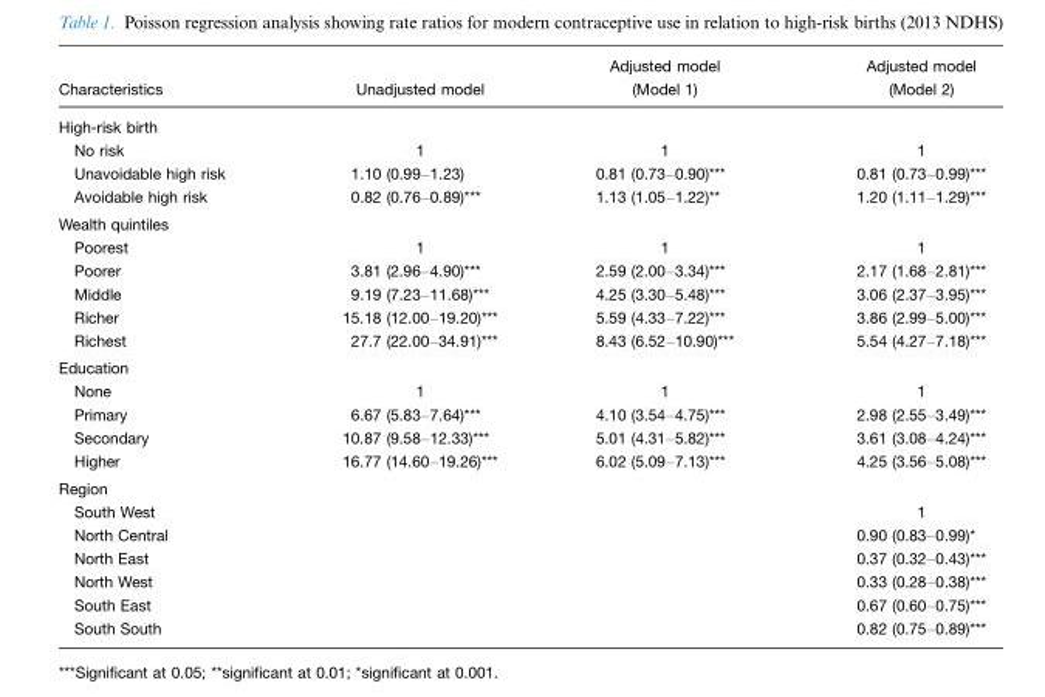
<table><thead><tr><td>Characteristics</td><td>Unadjusted model</td><td>Adjusted model (Model 1)</td><td>Adjusted model (Model 2)</td></tr></thead><tbody><tr><td colspan="4">High-risk birth</td></tr><tr><td>No risk</td><td>1</td><td>1</td><td>1</td></tr><tr><td>Unavoidable high risk</td><td>1.10 (0.99–1.23)</td><td>0.81 (0.73–0.90)***</td><td>0.81 (0.73–0.99)***</td></tr><tr><td>Avoidable high risk</td><td>0.82 (0.76–0.89)***</td><td>1.13 (1.05–1.22)**</td><td>1.20 (1.11–1.29)***</td></tr><tr><td colspan="4">Wealth quintiles</td></tr><tr><td>Poorest</td><td>1</td><td>1</td><td>1</td></tr><tr><td>Poorer</td><td>3.81 (2.96–4.90)***</td><td>2.59 (2.00–3.34)***</td><td>2.17 (1.68–2.81)***</td></tr><tr><td>Middle</td><td>9.19 (7.23–11.68)***</td><td>4.25 (3.30–5.48)***</td><td>3.06 (2.37–3.95)***</td></tr><tr><td>Richer</td><td>15.18 (12.00–19.20)***</td><td>5.59 (4.33–7.22)***</td><td>3.86 (2.99–5.00)***</td></tr><tr><td>Richest</td><td>27.7 (22.00–34.91)***</td><td>8.43 (6.52–10.90)***</td><td>5.54 (4.27–7.18)***</td></tr><tr><td colspan="4">Education</td></tr><tr><td>None</td><td>1</td><td>1</td><td>1</td></tr><tr><td>Primary</td><td>6.67 (5.83–7.64)***</td><td>4.10 (3.54–4.75)***</td><td>2.98 (2.55–3.49)***</td></tr><tr><td>Secondary</td><td>10.87 (9.58–12.33)***</td><td>5.01 (4.31–5.82)***</td><td>3.61 (3.08–4.24)***</td></tr><tr><td>Higher</td><td>16.77 (14.60–19.26)***</td><td>6.02 (5.09–7.13)***</td><td>4.25 (3.56–5.08)***</td></tr><tr><td colspan="4">Region</td></tr><tr><td>South West</td><td></td><td></td><td>1</td></tr><tr><td>North Central</td><td></td><td></td><td>0.90 (0.83–0.99)*</td></tr><tr><td>North East</td><td></td><td></td><td>0.37 (0.32–0.43)***</td></tr><tr><td>North West</td><td></td><td></td><td>0.33 (0.28–0.38)***</td></tr><tr><td>South East</td><td></td><td></td><td>0.67 (0.60–0.75)***</td></tr><tr><td>South South</td><td></td><td></td><td>0.82 (0.75–0.89)***</td></tr></tbody></table>